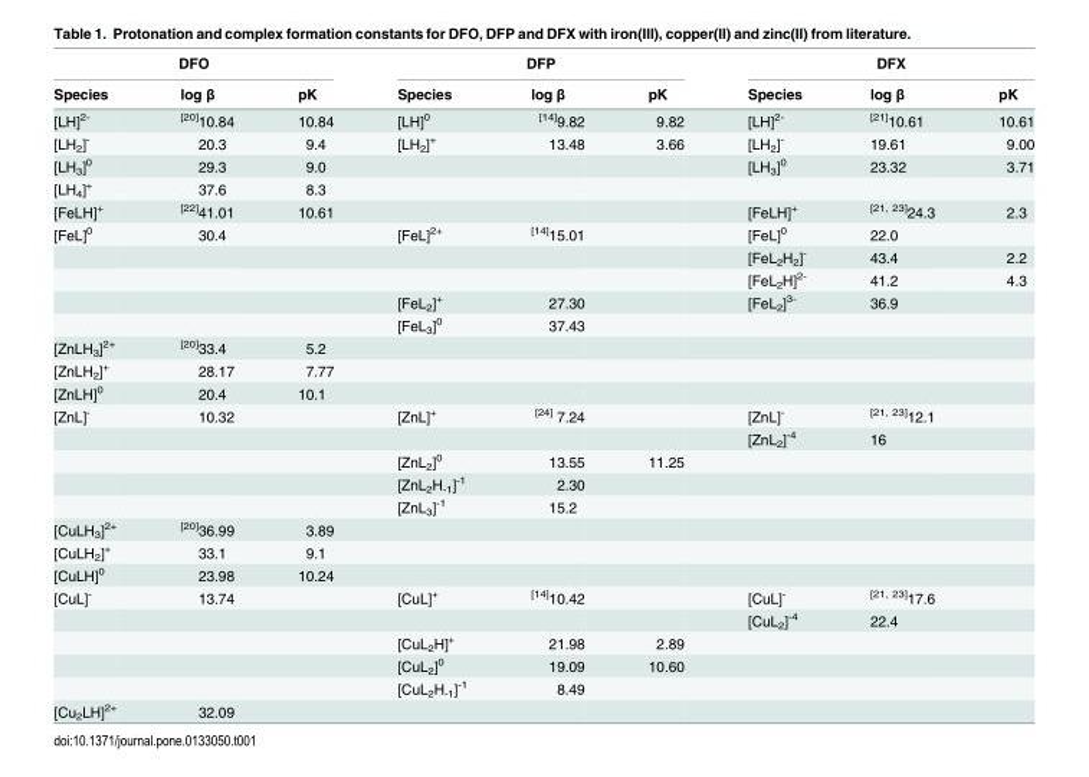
<table><thead><tr><td colspan="3">DFO</td><td colspan="3">DFP</td><td colspan="3">DFX</td></tr><tr><td>Species</td><td>log β</td><td>pK</td><td>Species</td><td>log β</td><td>pK</td><td>Species</td><td>log β</td><td>pK</td></tr></thead><tbody><tr><td>[LH]<sup>2-</sup></td><td><sup>[20]</sup>10.84</td><td>10.84</td><td>[LH]<sup>0</sup></td><td><sup>[14]</sup>9.82</td><td>9.82</td><td>[LH]<sup>2-</sup></td><td><sup>[21]</sup>10.61</td><td>10.61</td></tr><tr><td>[LH<sub>2</sub>]<sup>-</sup></td><td>20.3</td><td>9.4</td><td>[LH<sub>2</sub>]<sup>+</sup></td><td>13.48</td><td>3.66</td><td>[LH<sub>2</sub>]<sup>-</sup></td><td>19.61</td><td>9.00</td></tr><tr><td>[LH<sub>3</sub>]<sup>0</sup></td><td>29.3</td><td>9.0</td><td></td><td></td><td></td><td>[LH<sub>3</sub>]<sup>0</sup></td><td>23.32</td><td>3.71</td></tr><tr><td>[LH<sub>4</sub>]<sup>+</sup></td><td>37.6</td><td>8.3</td><td></td><td></td><td></td><td></td><td></td><td></td></tr><tr><td>[FeLH]<sup>+</sup></td><td><sup>[22]</sup>41.01</td><td>10.61</td><td></td><td></td><td></td><td>[FeLH]<sup>+</sup></td><td><sup>[21, 23]</sup>24.3</td><td>2.3</td></tr><tr><td rowspan="5">[FeL]<sup>0</sup></td><td>30.4</td><td></td><td>[FeL]<sup>2+</sup></td><td><sup>[14]</sup>15.01</td><td></td><td>[FeL]<sup>0</sup></td><td>22.0</td><td></td></tr><tr><td></td><td></td><td></td><td></td><td></td><td>[FeL<sub>2</sub>H<sub>2</sub>]<sup>-</sup></td><td>43.4</td><td>2.2</td></tr><tr><td></td><td></td><td></td><td></td><td></td><td>[FeL<sub>2</sub>H]<sup>2-</sup></td><td>41.2</td><td>4.3</td></tr><tr><td></td><td></td><td>[FeL<sub>2</sub>]<sup>+</sup></td><td>27.30</td><td></td><td>[FeL<sub>2</sub>]<sup>3-</sup></td><td>36.9</td><td></td></tr><tr><td></td><td></td><td>[FeL<sub>3</sub>]<sup>0</sup></td><td>37.43</td><td></td><td></td><td></td><td></td></tr><tr><td>[ZnLH<sub>3</sub>]<sup>2+</sup></td><td><sup>[20]</sup>33.4</td><td>5.2</td><td></td><td></td><td></td><td></td><td></td><td></td></tr><tr><td>[ZnLH<sub>2</sub>]<sup>+</sup></td><td>28.17</td><td>7.77</td><td></td><td></td><td></td><td></td><td></td><td></td></tr><tr><td>[ZnLH]<sup>0</sup></td><td>20.4</td><td>10.1</td><td></td><td></td><td></td><td></td><td></td><td></td></tr><tr><td rowspan="5">[ZnL]<sup>-</sup></td><td>10.32</td><td></td><td>[ZnL]<sup>+</sup></td><td><sup>[24]</sup> 7.24</td><td></td><td>[ZnL]<sup>-</sup></td><td><sup>[21, 23]</sup>12.1</td><td></td></tr><tr><td></td><td></td><td></td><td></td><td></td><td>[ZnL<sub>2</sub>]<sup>-4</sup></td><td>16</td><td></td></tr><tr><td></td><td></td><td>[ZnL<sub>2</sub>]<sup>0</sup></td><td>13.55</td><td>11.25</td><td></td><td></td><td></td></tr><tr><td></td><td></td><td>[ZnL<sub>2</sub>H<sub>-1</sub>]<sup>-1</sup></td><td>2.30</td><td></td><td></td><td></td><td></td></tr><tr><td></td><td></td><td>[ZnL<sub>3</sub>]<sup>-1</sup></td><td>15.2</td><td></td><td></td><td></td><td></td></tr><tr><td>[CuLH<sub>3</sub>]<sup>2+</sup></td><td><sup>[20]</sup>36.99</td><td>3.89</td><td></td><td></td><td></td><td></td><td></td><td></td></tr><tr><td>[CuLH<sub>2</sub>]<sup>+</sup></td><td>33.1</td><td>9.1</td><td></td><td></td><td></td><td></td><td></td><td></td></tr><tr><td>[CuLH]<sup>0</sup></td><td>23.98</td><td>10.24</td><td></td><td></td><td></td><td></td><td></td><td></td></tr><tr><td rowspan="5">[CuL]<sup>-</sup></td><td>13.74</td><td></td><td>[CuL]<sup>+</sup></td><td><sup>[14]</sup>10.42</td><td></td><td>[CuL]<sup>-</sup></td><td><sup>[21, 23]</sup>17.6</td><td></td></tr><tr><td></td><td></td><td></td><td></td><td></td><td>[CuL<sub>2</sub>]<sup>-4</sup></td><td>22.4</td><td></td></tr><tr><td></td><td></td><td>[CuL<sub>2</sub>H]<sup>+</sup></td><td>21.98</td><td>2.89</td><td></td><td></td><td></td></tr><tr><td></td><td></td><td>[CuL<sub>2</sub>]<sup>0</sup></td><td>19.09</td><td>10.60</td><td></td><td></td><td></td></tr><tr><td></td><td></td><td>[CuL<sub>2</sub>H<sub>-1</sub>]<sup>-1</sup></td><td>8.49</td><td></td><td></td><td></td><td></td></tr><tr><td>[Cu<sub>2</sub>LH]<sup>2+</sup></td><td>32.09</td><td></td><td></td><td></td><td></td><td></td><td></td><td></td></tr></tbody></table>